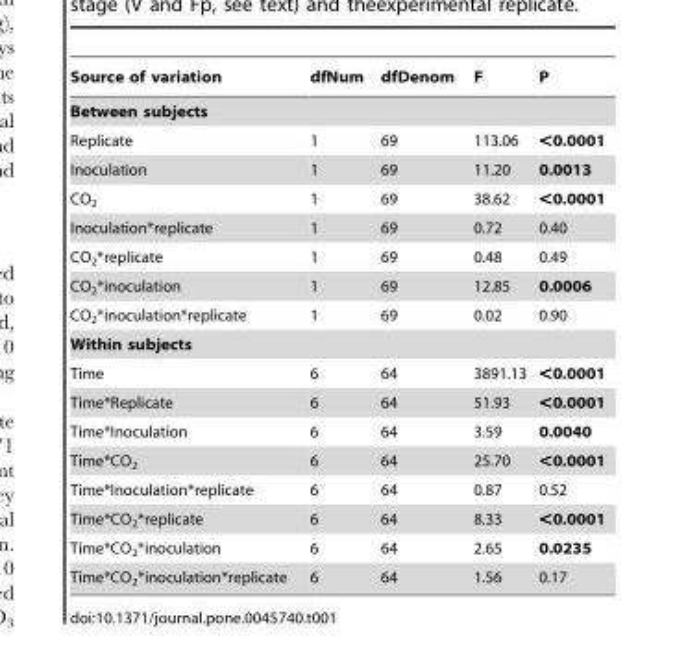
<table><thead><tr><td>Source of variation</td><td>dfNum</td><td>dfDenom</td><td>F</td><td>P</td></tr></thead><tbody><tr><td colspan="5">Between subjects</td></tr><tr><td>Replicate</td><td>1</td><td>69</td><td>113.06</td><td>&lt;0.0001</td></tr><tr><td>Inoculation</td><td>1</td><td>69</td><td>11.20</td><td>0.0013</td></tr><tr><td>CO<sub>2</sub></td><td>1</td><td>69</td><td>38.62</td><td>&lt;0.0001</td></tr><tr><td>Inoculation*replicate</td><td>1</td><td>69</td><td>0.72</td><td>0.40</td></tr><tr><td>CO<sub>2</sub>*replicate</td><td>1</td><td>69</td><td>0.48</td><td>0.49</td></tr><tr><td>CO<sub>2</sub>*inoculation</td><td>1</td><td>69</td><td>12.85</td><td>0.0006</td></tr><tr><td>CO<sub>2</sub>*inoculation*replicate</td><td>1</td><td>69</td><td>0.02</td><td>0.90</td></tr><tr><td colspan="5">Within subjects</td></tr><tr><td>Time</td><td>6</td><td>64</td><td>3891.13</td><td>&lt;0.0001</td></tr><tr><td>Time*Replicate</td><td>6</td><td>64</td><td>51.93</td><td>&lt;0.0001</td></tr><tr><td>Time*Inoculation</td><td>6</td><td>64</td><td>3.59</td><td>0.0040</td></tr><tr><td>Time*CO<sub>2</sub></td><td>6</td><td>64</td><td>25.70</td><td>&lt;0.0001</td></tr><tr><td>Time*Inoculation*replicate</td><td>6</td><td>64</td><td>0.87</td><td>0.52</td></tr><tr><td>Time*CO<sub>2</sub>*replicate</td><td>6</td><td>64</td><td>8.33</td><td>&lt;0.0001</td></tr><tr><td>Time*CO<sub>2</sub>*inoculation</td><td>6</td><td>64</td><td>2.65</td><td>0.0235</td></tr><tr><td>Time*CO<sub>2</sub>*inoculation*replicate</td><td>6</td><td>64</td><td>1.56</td><td>0.17</td></tr></tbody></table>